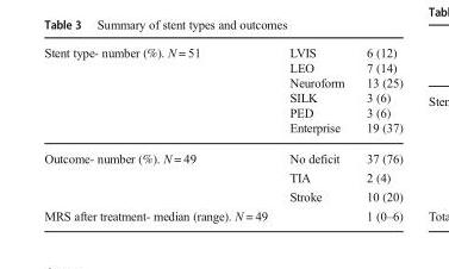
<table><thead><tr><td rowspan="6">Stent type- number (%). N = 51</td><td rowspan="6">LVIS LEO Neuroform SILK PED Enterprise</td><td rowspan="6">6 (12) 7 (14) 13 (25) 3 (6) 3 (6) 19 (37)</td></tr><tr></tr><tr></tr><tr></tr><tr></tr><tr></tr></thead><tbody><tr><td rowspan="3">Outcome- number (%). N = 49</td><td>No deficit</td><td>37 (76)</td></tr><tr><td>TIA</td><td>2 (4)</td></tr><tr><td>Stroke</td><td>10 (20)</td></tr><tr><td>MRS after treatment- median (range). N = 49</td><td></td><td>1 (0–6)</td></tr></tbody></table>